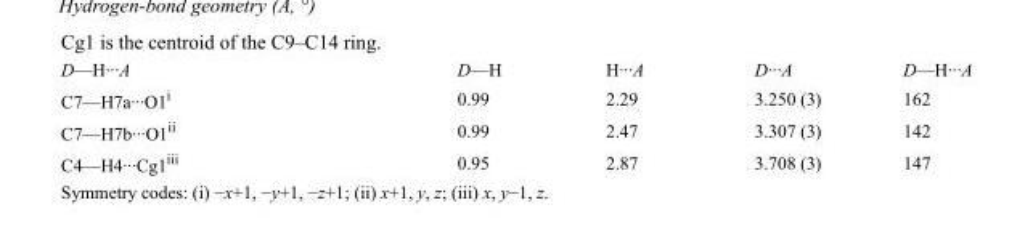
<table><tbody><tr><td>D—H···A</td><td>D—H</td><td>H···A</td><td>D···A</td><td>D—H···A</td></tr><tr><td>C7—H7a···O1<sup>i</sup></td><td>0.99</td><td>2.29</td><td>3.250 (3)</td><td>162</td></tr><tr><td>C7—H7b···O1<sup>ii</sup></td><td>0.99</td><td>2.47</td><td>3.307 (3)</td><td>142</td></tr><tr><td>C4—H4···Cg1<sup>iii</sup></td><td>0.95</td><td>2.87</td><td>3.708 (3)</td><td>147</td></tr></tbody></table>